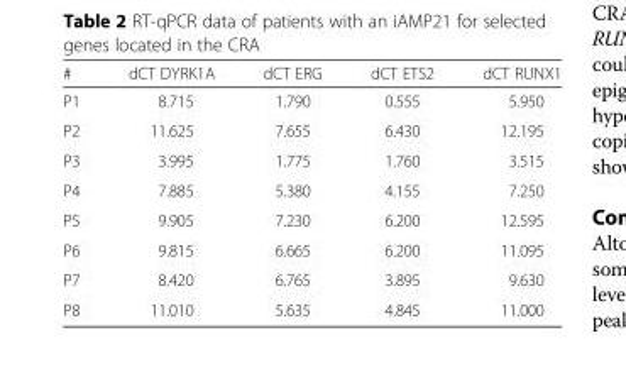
<table><thead><tr><td>#</td><td>dCT DYRK1A</td><td>dCT ERG</td><td>dCT ETS2</td><td>dCT RUNX1</td></tr></thead><tbody><tr><td>P1</td><td>8.715</td><td>1.790</td><td>0.555</td><td>5.950</td></tr><tr><td>P2</td><td>11.625</td><td>7.655</td><td>6.430</td><td>12.195</td></tr><tr><td>P3</td><td>3.995</td><td>1.775</td><td>1.760</td><td>3.515</td></tr><tr><td>P4</td><td>7.885</td><td>5.380</td><td>4.155</td><td>7.250</td></tr><tr><td>P5</td><td>9.905</td><td>7.230</td><td>6.200</td><td>12.595</td></tr><tr><td>P6</td><td>9.815</td><td>6.665</td><td>6.200</td><td>11.095</td></tr><tr><td>P7</td><td>8.420</td><td>6.765</td><td>3.895</td><td>9.630</td></tr><tr><td>P8</td><td>11.010</td><td>5.635</td><td>4.845</td><td>11.000</td></tr></tbody></table>